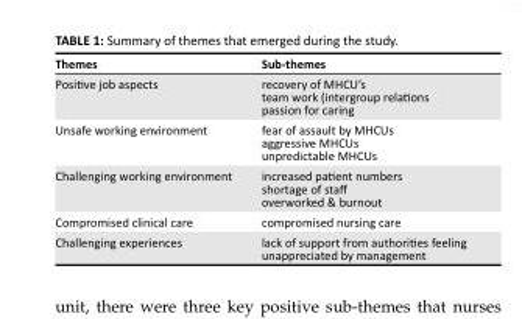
<table><thead><tr><td>Themes</td><td>Sub-themes</td></tr></thead><tbody><tr><td>Positive job aspects</td><td>recovery of MHCU’s team work (intergroup relations passion for caring</td></tr><tr><td>Unsafe working environment</td><td>fear of assault by MHCUs aggressive MHCUs unpredictable MHCUs</td></tr><tr><td>Challenging working environment</td><td>increased patient numbers shortage of staff overworked &amp; burnout</td></tr><tr><td>Compromised clinical care</td><td>compromised nursing care</td></tr><tr><td>Challenging experiences</td><td>lack of support from authorities feeling unappreciated by management</td></tr></tbody></table>